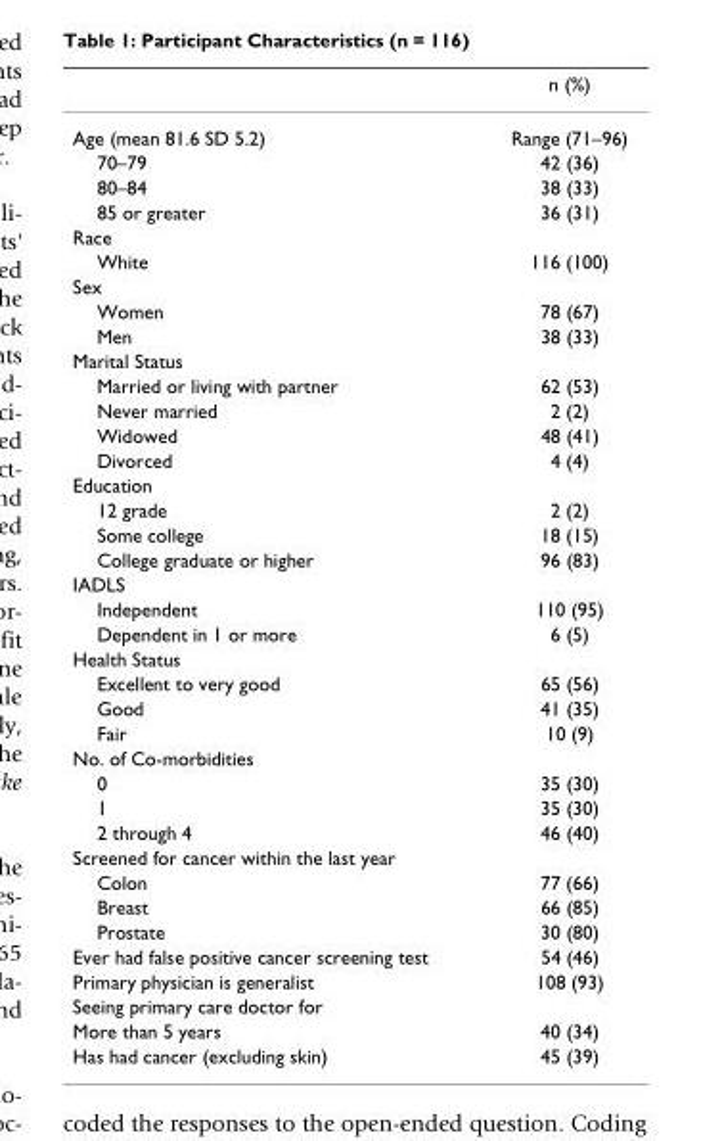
<table><thead><tr><td></td><td>n (%)</td></tr></thead><tbody><tr><td>Age (mean 81.6 SD 5.2)</td><td>Range (71–96)</td></tr><tr><td>70–79</td><td>42 (36)</td></tr><tr><td>80–84</td><td>38 (33)</td></tr><tr><td>85 or greater</td><td>36 (31)</td></tr><tr><td colspan="2">Race</td></tr><tr><td>White</td><td>116 (100)</td></tr><tr><td colspan="2">Sex</td></tr><tr><td>Women</td><td>78 (67)</td></tr><tr><td>Men</td><td>38 (33)</td></tr><tr><td colspan="2">Marital Status</td></tr><tr><td>Married or living with partner</td><td>62 (53)</td></tr><tr><td>Never married</td><td>2 (2)</td></tr><tr><td>Widowed</td><td>48 (41)</td></tr><tr><td>Divorced</td><td>4 (4)</td></tr><tr><td colspan="2">Education</td></tr><tr><td>12 grade</td><td>2 (2)</td></tr><tr><td>Some college</td><td>18 (15)</td></tr><tr><td>College graduate or higher</td><td>96 (83)</td></tr><tr><td colspan="2">IADLS</td></tr><tr><td>Independent</td><td>110 (95)</td></tr><tr><td>Dependent in 1 or more</td><td>6 (5)</td></tr><tr><td colspan="2">Health Status</td></tr><tr><td>Excellent to very good</td><td>65 (56)</td></tr><tr><td>Good</td><td>41 (35)</td></tr><tr><td>Fair</td><td>10 (9)</td></tr><tr><td colspan="2">No. of Co-morbidities</td></tr><tr><td>0</td><td>35 (30)</td></tr><tr><td>1</td><td>35 (30)</td></tr><tr><td>2 through 4</td><td>46 (40)</td></tr><tr><td colspan="2">Screened for cancer within the last year</td></tr><tr><td>Colon</td><td>77 (66)</td></tr><tr><td>Breast</td><td>66 (85)</td></tr><tr><td>Prostate</td><td>30 (80)</td></tr><tr><td>Ever had false positive cancer screening test</td><td>54 (46)</td></tr><tr><td>Primary physician is generalist</td><td>108 (93)</td></tr><tr><td colspan="2">Seeing primary care doctor for</td></tr><tr><td>More than 5 years</td><td>40 (34)</td></tr><tr><td>Has had cancer (excluding skin)</td><td>45 (39)</td></tr></tbody></table>